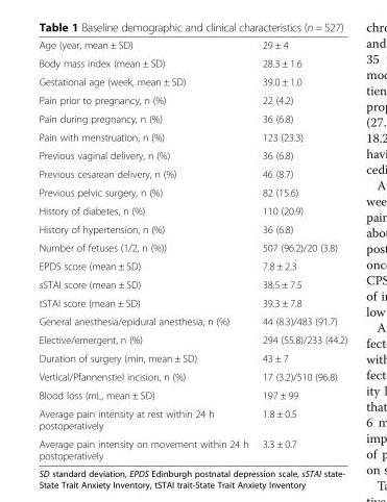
<table><tbody><tr><td>Age (year, mean ± SD)</td><td>29 ± 4</td></tr><tr><td>Body mass index (mean ± SD)</td><td>28.3 ± 1.6</td></tr><tr><td>Gestational age (week, mean ± SD)</td><td>39.0 ± 1.0</td></tr><tr><td>Pain prior to pregnancy, n (%)</td><td>22 (4.2)</td></tr><tr><td>Pain during pregnancy, n (%)</td><td>36 (6.8)</td></tr><tr><td>Pain with menstruation, n (%)</td><td>123 (23.3)</td></tr><tr><td>Previous vaginal delivery, n (%)</td><td>36 (6.8)</td></tr><tr><td>Previous cesarean delivery, n (%)</td><td>46 (8.7)</td></tr><tr><td>Previous pelvic surgery, n (%)</td><td>82 (15.6)</td></tr><tr><td>History of diabetes, n (%)</td><td>110 (20.9)</td></tr><tr><td>History of hypertension, n (%)</td><td>36 (6.8)</td></tr><tr><td>Number of fetuses (1/2, n (%))</td><td>507 (96.2)/20 (3.8)</td></tr><tr><td>EPDS score (mean ± SD)</td><td>7.8 ± 2.3</td></tr><tr><td>sSTAI score (mean ± SD)</td><td>38.5 ± 7.5</td></tr><tr><td>tSTAI score (mean ± SD)</td><td>39.3 ± 7.8</td></tr><tr><td>General anesthesia/epidural anesthesia, n (%)</td><td>44 (8.3)/483 (91.7)</td></tr><tr><td>Elective/emergent, n (%)</td><td>294 (55.8)/233 (44.2)</td></tr><tr><td>Duration of surgery (min, mean ± SD)</td><td>43 ± 7</td></tr><tr><td>Vertical/Pfannenstiel incision, n (%)</td><td>17 (3.2)/510 (96.8)</td></tr><tr><td>Blood loss (mL, mean ± SD)</td><td>197 ± 99</td></tr><tr><td>Average pain intensity at rest within 24 h postoperatively</td><td>1.8 ± 0.5</td></tr><tr><td>Average pain intensity on movement within 24 h postoperatively</td><td>3.3 ± 0.7</td></tr></tbody></table>